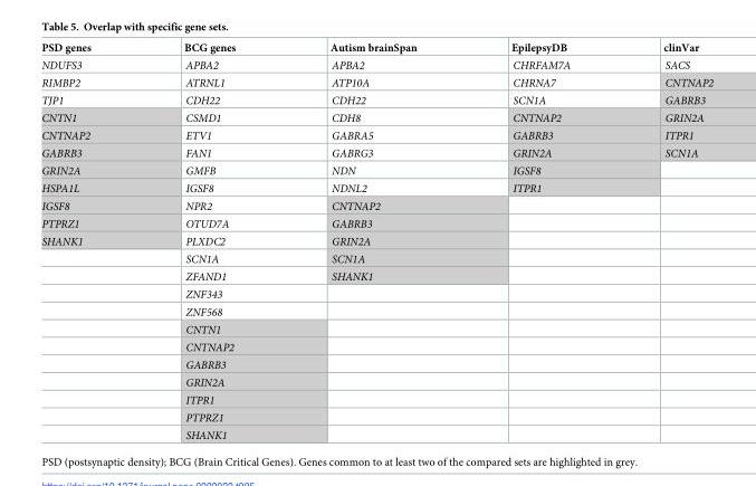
<table><thead><tr><td>PSD genes</td><td>BCG genes</td><td>Autism brainSpan</td><td>EpilepsyDB</td><td>clinVar</td></tr></thead><tbody><tr><td>NDUFS3</td><td>APBA2</td><td>APBA2</td><td>CHRFAM7A</td><td>SACS</td></tr><tr><td>RIMBP2</td><td>ATRNL1</td><td>ATP10A</td><td>CHRNA7</td><td>CNTNAP2</td></tr><tr><td>TJP1</td><td>CDH22</td><td>CDH22</td><td>SCN1A</td><td>GABRB3</td></tr><tr><td>CNTN1</td><td>CSMD1</td><td>CDH8</td><td>CNTNAP2</td><td>GRIN2A</td></tr><tr><td>CNTNAP2</td><td>ETV1</td><td>GABRA5</td><td>GABRB3</td><td>ITPR1</td></tr><tr><td>GABRB3</td><td>FAN1</td><td>GABRG3</td><td>GRIN2A</td><td>SCN1A</td></tr><tr><td>GRIN2A</td><td>GMFB</td><td>NDN</td><td>IGSF8</td><td></td></tr><tr><td>HSPA1L</td><td>IGSF8</td><td>NDNL2</td><td>ITPR1</td><td></td></tr><tr><td>IGSF8</td><td>NPR2</td><td>CNTNAP2</td><td></td><td></td></tr><tr><td>PTPRZ1</td><td>OTUD7A</td><td>GABRB3</td><td></td><td></td></tr><tr><td rowspan="12">SHANK1</td><td>PLXDC2</td><td>GRIN2A</td><td></td><td></td></tr><tr><td>SCN1A</td><td>SCN1A</td><td></td><td></td></tr><tr><td>ZFAND1</td><td>SHANK1</td><td></td><td></td></tr><tr><td>ZNF343</td><td></td><td></td><td></td></tr><tr><td>ZNF568</td><td></td><td></td><td></td></tr><tr><td>CNTN1</td><td></td><td></td><td></td></tr><tr><td>CNTNAP2</td><td></td><td></td><td></td></tr><tr><td>GABRB3</td><td></td><td></td><td></td></tr><tr><td>GRIN2A</td><td></td><td></td><td></td></tr><tr><td>ITPR1</td><td></td><td></td><td></td></tr><tr><td>PTPRZ1</td><td></td><td></td><td></td></tr><tr><td>SHANK1</td><td></td><td></td><td></td></tr></tbody></table>